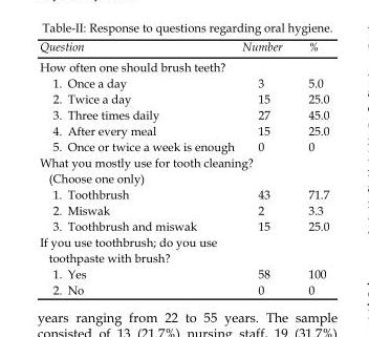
<table><thead><tr><td>Question</td><td>Number</td><td>%</td></tr></thead><tbody><tr><td colspan="3">How often one should brush teeth?</td></tr><tr><td>1. Once a day</td><td>3</td><td>5.0</td></tr><tr><td>2. Twice a day</td><td>15</td><td>25.0</td></tr><tr><td>3. Three times daily</td><td>27</td><td>45.0</td></tr><tr><td>4. After every meal</td><td>15</td><td>25.0</td></tr><tr><td>5. Once or twice a week is enough</td><td>0</td><td>0</td></tr><tr><td colspan="3">What you mostly use for tooth cleaning? (Choose one only)</td></tr><tr><td>1. Toothbrush</td><td>43</td><td>71.7</td></tr><tr><td>2. Miswak</td><td>2</td><td>3.3</td></tr><tr><td>3. Toothbrush and miswak</td><td>15</td><td>25.0</td></tr><tr><td colspan="3">If you use toothbrush; do you use toothpaste with brush?</td></tr><tr><td>1. Yes</td><td>58</td><td>100</td></tr><tr><td>2. No</td><td>0</td><td>0</td></tr></tbody></table>